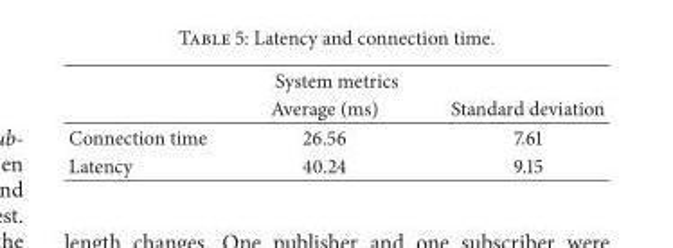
<table><thead><tr><td colspan="3">System metrics</td></tr><tr><td></td><td>Average (ms)</td><td>Standard deviation</td></tr></thead><tbody><tr><td>Connection time</td><td>26.56</td><td>7.61</td></tr><tr><td>Latency</td><td>40.24</td><td>9.15</td></tr></tbody></table>